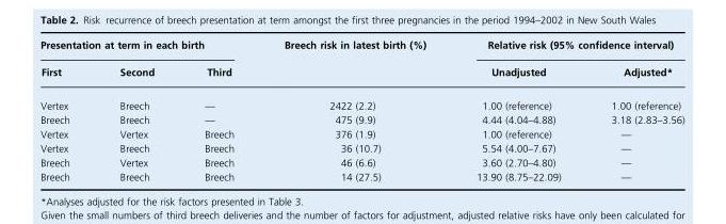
<table><thead><tr><td colspan="3">Presentation at term in each birth</td><td rowspan="2">Breech risk in latest birth (%)</td><td colspan="2">Relative risk (95% confidence interval)</td></tr><tr><td>First</td><td>Second</td><td>Third</td><td>Unadjusted</td><td>Adjusted*</td></tr></thead><tbody><tr><td>Vertex</td><td>Breech</td><td>—</td><td>2422 (2.2)</td><td>1.00 (reference)</td><td>1.00 (reference)</td></tr><tr><td>Breech</td><td>Breech</td><td>—</td><td>475 (9.9)</td><td>4.44 (4.04–4.88)</td><td>3.18 (2.83–3.56)</td></tr><tr><td>Vertex</td><td>Vertex</td><td>Breech</td><td>376 (1.9)</td><td>1.00 (reference)</td><td>—</td></tr><tr><td>Vertex</td><td>Breech</td><td>Breech</td><td>36 (10.7)</td><td>5.54 (4.00–7.67)</td><td>—</td></tr><tr><td>Breech</td><td>Vertex</td><td>Breech</td><td>46 (6.6)</td><td>3.60 (2.70–4.80)</td><td>—</td></tr><tr><td>Breech</td><td>Breech</td><td>Breech</td><td>14 (27.5)</td><td>13.90 (8.75–22.09)</td><td>—</td></tr></tbody></table>